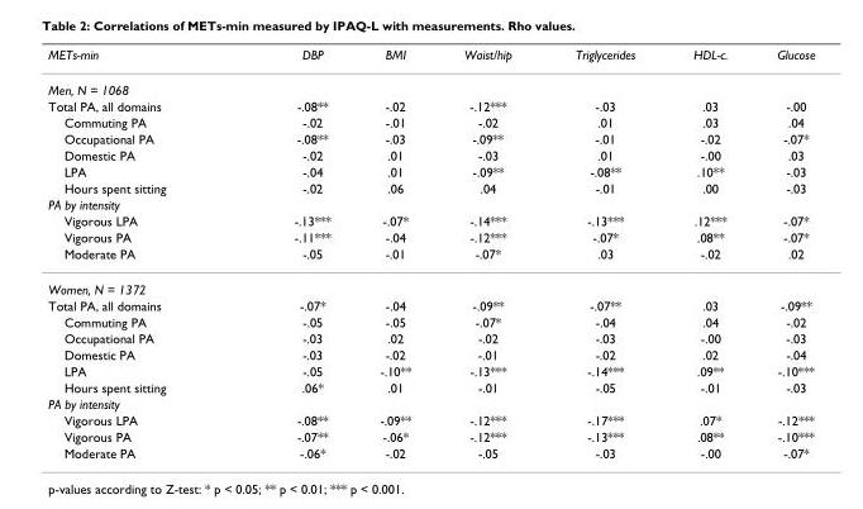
<table><thead><tr><td>METs-min</td><td>DBP</td><td>BMI</td><td>Waist/hip</td><td>Triglycerides</td><td>HDL-c.</td><td>Glucose</td></tr></thead><tbody><tr><td colspan="7">Men, N = 1068</td></tr><tr><td>Total PA, all domains</td><td>-.08**</td><td>-.02</td><td>-.12***</td><td>-.03</td><td>.03</td><td>-.00</td></tr><tr><td>Commuting PA</td><td>-.02</td><td>-.01</td><td>-.02</td><td>.01</td><td>.03</td><td>.04</td></tr><tr><td>Occupational PA</td><td>-.08**</td><td>-.03</td><td>-.09**</td><td>-.01</td><td>-.02</td><td>-.07*</td></tr><tr><td>Domestic PA</td><td>-.02</td><td>.01</td><td>-.03</td><td>.01</td><td>-.00</td><td>.03</td></tr><tr><td>LPA</td><td>-.04</td><td>.01</td><td>-.09**</td><td>-.08**</td><td>.10**</td><td>-.03</td></tr><tr><td>Hours spent sitting</td><td>-.02</td><td>.06</td><td>.04</td><td>-.01</td><td>.00</td><td>-.03</td></tr><tr><td colspan="7">PA by intensity</td></tr><tr><td>Vigorous LPA</td><td>-.13***</td><td>-.07*</td><td>-.14***</td><td>-.13***</td><td>.12***</td><td>-.07*</td></tr><tr><td>Vigorous PA</td><td>-.11***</td><td>-.04</td><td>-.12***</td><td>-.07*</td><td>.08**</td><td>-.07*</td></tr><tr><td>Moderate PA</td><td>-.05</td><td>-.01</td><td>-.07*</td><td>.03</td><td>-.02</td><td>.02</td></tr><tr><td colspan="7">Women, N = 1372</td></tr><tr><td>Total PA, all domains</td><td>-.07*</td><td>-.04</td><td>-.09**</td><td>-.07**</td><td>.03</td><td>-.09**</td></tr><tr><td>Commuting PA</td><td>-.05</td><td>-.05</td><td>-.07*</td><td>-.04</td><td>.04</td><td>-.02</td></tr><tr><td>Occupational PA</td><td>-.03</td><td>.02</td><td>-.02</td><td>-.03</td><td>-.00</td><td>-.03</td></tr><tr><td>Domestic PA</td><td>-.03</td><td>-.02</td><td>-.01</td><td>-.02</td><td>.02</td><td>-.04</td></tr><tr><td>LPA</td><td>-.05</td><td>-.10**</td><td>-.13***</td><td>-.14***</td><td>.09**</td><td>-.10***</td></tr><tr><td>Hours spent sitting</td><td>.06*</td><td>.01</td><td>-.01</td><td>-.05</td><td>-.01</td><td>-.03</td></tr><tr><td colspan="7">PA by intensity</td></tr><tr><td>Vigorous LPA</td><td>-.08**</td><td>-.09**</td><td>-.12***</td><td>-.17***</td><td>.07*</td><td>-.12***</td></tr><tr><td>Vigorous PA</td><td>-.07**</td><td>-.06*</td><td>-.12***</td><td>-.13***</td><td>.08**</td><td>-.10***</td></tr><tr><td>Moderate PA</td><td>-.06*</td><td>-.02</td><td>-.05</td><td>-.03</td><td>-.00</td><td>-.07*</td></tr></tbody></table>